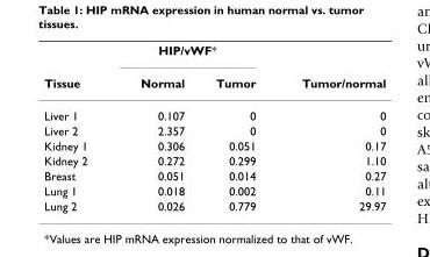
<table><thead><tr><td rowspan="2">Tissue</td><td colspan="2">HIP/vWF*</td><td rowspan="2">Tumor/normal</td></tr><tr><td>Normal</td><td>Tumor</td></tr></thead><tbody><tr><td>Liver 1</td><td>0.107</td><td>0</td><td>0</td></tr><tr><td>Liver 2</td><td>2.357</td><td>0</td><td>0</td></tr><tr><td>Kidney 1</td><td>0.306</td><td>0.051</td><td>0.17</td></tr><tr><td>Kidney 2</td><td>0.272</td><td>0.299</td><td>1.10</td></tr><tr><td>Breast</td><td>0.051</td><td>0.014</td><td>0.27</td></tr><tr><td>Lung 1</td><td>0.018</td><td>0.002</td><td>0.11</td></tr><tr><td>Lung 2</td><td>0.026</td><td>0.779</td><td>29.97</td></tr></tbody></table>